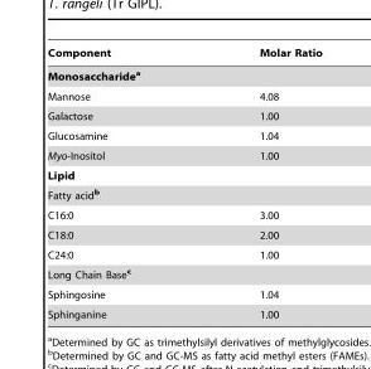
<table><thead><tr><td>Component</td><td>Molar Ratio</td></tr></thead><tbody><tr><td colspan="2">Monosaccharidea</td></tr><tr><td>Mannose</td><td>4.08</td></tr><tr><td>Galactose</td><td>1.00</td></tr><tr><td>Glucosamine</td><td>1.04</td></tr><tr><td>Myo-Inositol</td><td>1.00</td></tr><tr><td colspan="2">Lipid</td></tr><tr><td colspan="2">Fatty acid<sup>b</sup></td></tr><tr><td>C16:0</td><td>3.00</td></tr><tr><td>C18:0</td><td>2.00</td></tr><tr><td>C24:0</td><td>1.00</td></tr><tr><td colspan="2">Long Chain Base<sup>c</sup></td></tr><tr><td>Sphingosine</td><td>1.04</td></tr><tr><td>Sphinganine</td><td>1.00</td></tr></tbody></table>